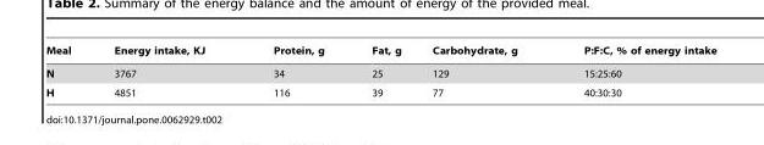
<table><thead><tr><td>Meal</td><td>Energy intake, KJ</td><td>Protein, g</td><td>Fat, g</td><td>Carbohydrate, g</td><td>P:F:C, % of energy intake</td></tr></thead><tbody><tr><td>N</td><td>3767</td><td>34</td><td>25</td><td>129</td><td>15:25:60</td></tr><tr><td>H</td><td>4851</td><td>116</td><td>39</td><td>77</td><td>40:30:30</td></tr></tbody></table>